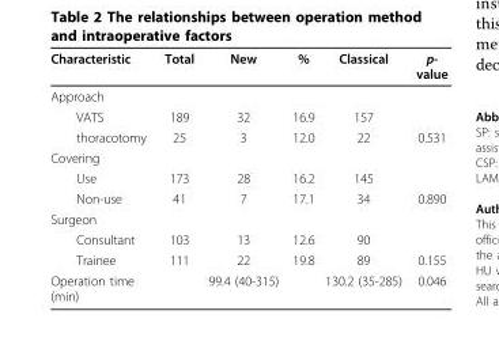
<table><thead><tr><td>Characteristic</td><td>Total</td><td>New</td><td>%</td><td>Classical</td><td>p- value</td></tr></thead><tbody><tr><td colspan="6">Approach</td></tr><tr><td>VATS</td><td>189</td><td>32</td><td>16.9</td><td>157</td><td></td></tr><tr><td>thoracotomy</td><td>25</td><td>3</td><td>12.0</td><td>22</td><td>0.531</td></tr><tr><td colspan="6">Covering</td></tr><tr><td>Use</td><td>173</td><td>28</td><td>16.2</td><td>145</td><td></td></tr><tr><td>Non-use</td><td>41</td><td>7</td><td>17.1</td><td>34</td><td>0.890</td></tr><tr><td colspan="6">Surgeon</td></tr><tr><td>Consultant</td><td>103</td><td>13</td><td>12.6</td><td>90</td><td></td></tr><tr><td>Trainee</td><td>111</td><td>22</td><td>19.8</td><td>89</td><td>0.155</td></tr><tr><td>Operation time (min)</td><td></td><td>99.4 (40-315)</td><td></td><td>130.2 (35-285)</td><td>0.046</td></tr></tbody></table>